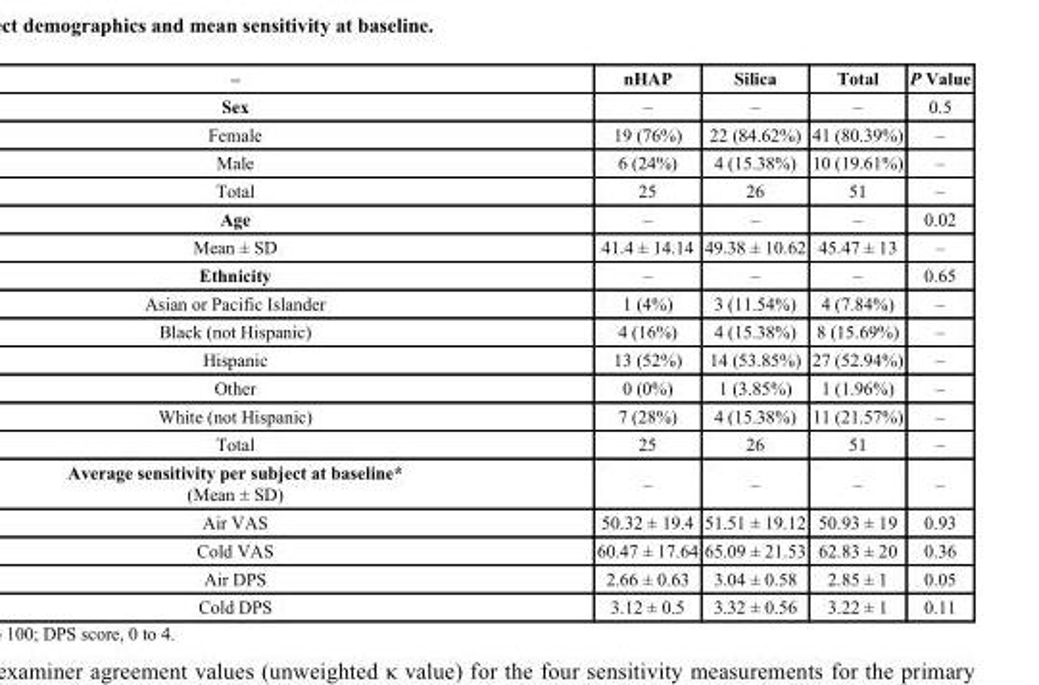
<table><thead><tr><td>–</td><td>nHAP</td><td>Silica</td><td>Total</td><td>P Value</td></tr></thead><tbody><tr><td>Sex</td><td>–</td><td>–</td><td>–</td><td>0.5</td></tr><tr><td>Female</td><td>19 (76%)</td><td>22 (84.62%)</td><td>41 (80.39%)</td><td>–</td></tr><tr><td>Male</td><td>6 (24%)</td><td>4 (15.38%)</td><td>10 (19.61%)</td><td>–</td></tr><tr><td>Total</td><td>25</td><td>26</td><td>51</td><td>–</td></tr><tr><td>Age</td><td>–</td><td>–</td><td>–</td><td>0.02</td></tr><tr><td>Mean ± SD</td><td>41.4 ± 14.14</td><td>49.38 ± 10.62</td><td>45.47 ± 13</td><td>–</td></tr><tr><td>Ethnicity</td><td>–</td><td>–</td><td>–</td><td>0.65</td></tr><tr><td>Asian or Pacific Islander</td><td>1 (4%)</td><td>3 (11.54%)</td><td>4 (7.84%)</td><td>–</td></tr><tr><td>Black (not Hispanic)</td><td>4 (16%)</td><td>4 (15.38%)</td><td>8 (15.69%)</td><td>–</td></tr><tr><td>Hispanic</td><td>13 (52%)</td><td>14 (53.85%)</td><td>27 (52.94%)</td><td>–</td></tr><tr><td>Other</td><td>0 (0%)</td><td>1 (3.85%)</td><td>1 (1.96%)</td><td>–</td></tr><tr><td>White (not Hispanic)</td><td>7 (28%)</td><td>4 (15.38%)</td><td>11 (21.57%)</td><td>–</td></tr><tr><td>Total</td><td>25</td><td>26</td><td>51</td><td>–</td></tr><tr><td>Average sensitivity per subject at baseline* (Mean ± SD)</td><td>–</td><td>–</td><td>–</td><td>–</td></tr><tr><td>Air VAS</td><td>50.32 ± 19.4</td><td>51.51 ± 19.12</td><td>50.93 ± 19</td><td>0.93</td></tr><tr><td>Cold VAS</td><td>60.47 ± 17.64</td><td>65.09 ± 21.53</td><td>62.83 ± 20</td><td>0.36</td></tr><tr><td>Air DPS</td><td>2.66 ± 0.63</td><td>3.04 ± 0.58</td><td>2.85 ± 1</td><td>0.05</td></tr><tr><td>Cold DPS</td><td>3.12 ± 0.5</td><td>3.32 ± 0.56</td><td>3.22 ± 1</td><td>0.11</td></tr></tbody></table>